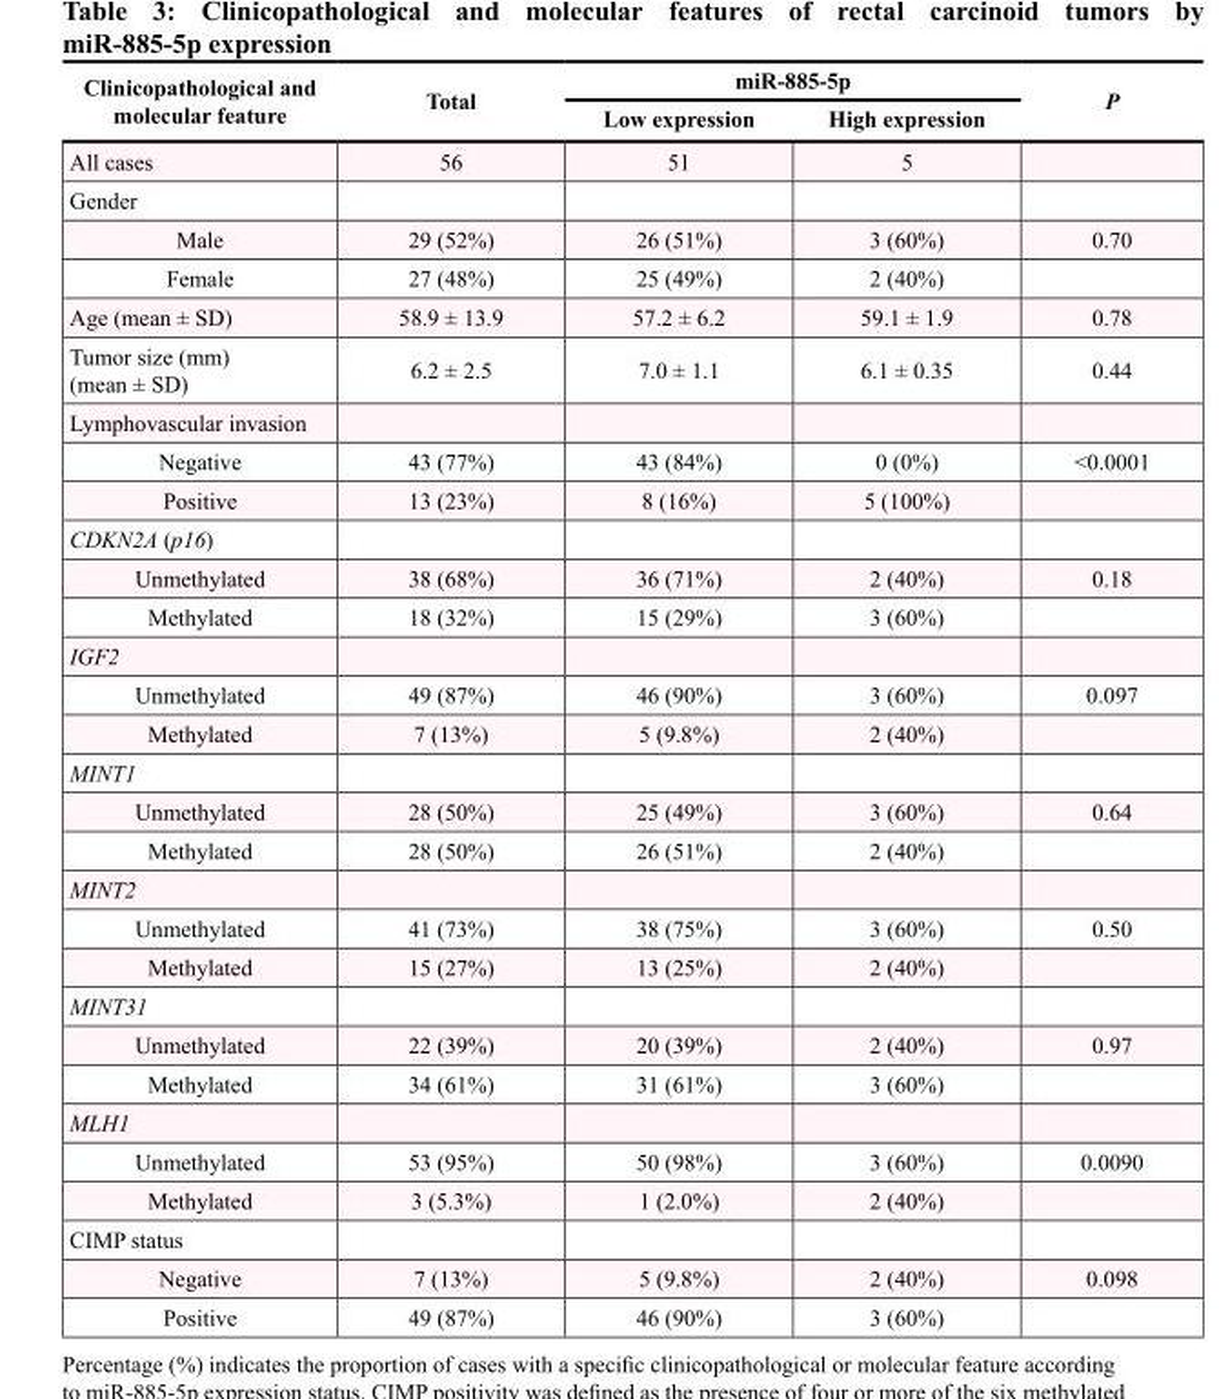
<table><thead><tr><td rowspan="2">Clinicopathological and molecular feature</td><td rowspan="2">Total</td><td colspan="2">miR-885-5p</td><td rowspan="2">P</td></tr><tr><td>Low expression</td><td>High expression</td></tr></thead><tbody><tr><td>All cases</td><td>56</td><td>51</td><td>5</td><td></td></tr><tr><td colspan="5">Gender</td></tr><tr><td>Male</td><td>29 (52%)</td><td>26 (51%)</td><td>3 (60%)</td><td>0.70</td></tr><tr><td>Female</td><td>27 (48%)</td><td>25 (49%)</td><td>2 (40%)</td><td></td></tr><tr><td>Age (mean ± SD)</td><td>58.9 ± 13.9</td><td>57.2 ± 6.2</td><td>59.1 ± 1.9</td><td>0.78</td></tr><tr><td>Tumor size (mm) (mean ± SD)</td><td>6.2 ± 2.5</td><td>7.0 ± 1.1</td><td>6.1 ± 0.35</td><td>0.44</td></tr><tr><td colspan="5">Lymphovascular invasion</td></tr><tr><td>Negative</td><td>43 (77%)</td><td>43 (84%)</td><td>0 (0%)</td><td>&lt;0.0001</td></tr><tr><td>Positive</td><td>13 (23%)</td><td>8 (16%)</td><td>5 (100%)</td><td></td></tr><tr><td colspan="5">CDKN2A (p16)</td></tr><tr><td>Unmethylated</td><td>38 (68%)</td><td>36 (71%)</td><td>2 (40%)</td><td>0.18</td></tr><tr><td>Methylated</td><td>18 (32%)</td><td>15 (29%)</td><td>3 (60%)</td><td></td></tr><tr><td colspan="5">IGF2</td></tr><tr><td>Unmethylated</td><td>49 (87%)</td><td>46 (90%)</td><td>3 (60%)</td><td>0.097</td></tr><tr><td>Methylated</td><td>7 (13%)</td><td>5 (9.8%)</td><td>2 (40%)</td><td></td></tr><tr><td colspan="5">MINT1</td></tr><tr><td>Unmethylated</td><td>28 (50%)</td><td>25 (49%)</td><td>3 (60%)</td><td>0.64</td></tr><tr><td>Methylated</td><td>28 (50%)</td><td>26 (51%)</td><td>2 (40%)</td><td></td></tr><tr><td colspan="5">MINT2</td></tr><tr><td>Unmethylated</td><td>41 (73%)</td><td>38 (75%)</td><td>3 (60%)</td><td>0.50</td></tr><tr><td>Methylated</td><td>15 (27%)</td><td>13 (25%)</td><td>2 (40%)</td><td></td></tr><tr><td colspan="5">MINT31</td></tr><tr><td>Unmethylated</td><td>22 (39%)</td><td>20 (39%)</td><td>2 (40%)</td><td>0.97</td></tr><tr><td>Methylated</td><td>34 (61%)</td><td>31 (61%)</td><td>3 (60%)</td><td></td></tr><tr><td colspan="5">MLH1</td></tr><tr><td>Unmethylated</td><td>53 (95%)</td><td>50 (98%)</td><td>3 (60%)</td><td>0.0090</td></tr><tr><td>Methylated</td><td>3 (5.3%)</td><td>1 (2.0%)</td><td>2 (40%)</td><td></td></tr><tr><td colspan="5">CIMP status</td></tr><tr><td>Negative</td><td>7 (13%)</td><td>5 (9.8%)</td><td>2 (40%)</td><td>0.098</td></tr><tr><td>Positive</td><td>49 (87%)</td><td>46 (90%)</td><td>3 (60%)</td><td></td></tr></tbody></table>